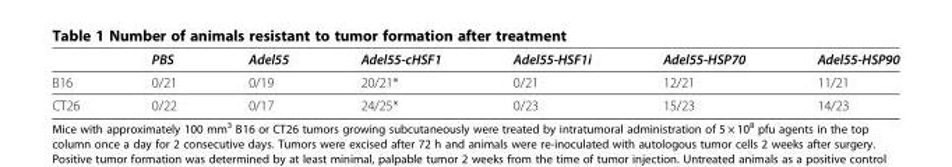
<table><thead><tr><td></td><td>PBS</td><td>Adel55</td><td>Adel55-cHSF1</td><td>Adel55-HSF1i</td><td>Adel55-HSP70</td><td>Adel55-HSP90</td></tr></thead><tbody><tr><td>B16</td><td>0/21</td><td>0/19</td><td>20/21*</td><td>0/21</td><td>12/21</td><td>11/21</td></tr><tr><td>CT26</td><td>0/22</td><td>0/17</td><td>24/25*</td><td>0/23</td><td>15/23</td><td>14/23</td></tr></tbody></table>